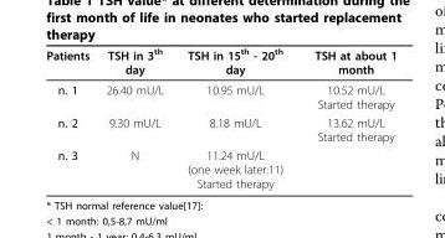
<table><thead><tr><td>Patients</td><td>TSH in 3<sup>th</sup> day</td><td>TSH in 15<sup>th</sup> - 20<sup>th</sup> day</td><td>TSH at about 1 month</td></tr></thead><tbody><tr><td>n. 1</td><td>26.40 mU/L</td><td>10.95 mU/L</td><td>10.52 mU/L Started therapy</td></tr><tr><td>n. 2</td><td>9.30 mU/L</td><td>8.18 mU/L</td><td>13.62 mU/L Started therapy</td></tr><tr><td>n. 3</td><td>N</td><td>11.24 mU/L (one week later:11) Started therapy</td><td></td></tr></tbody></table>